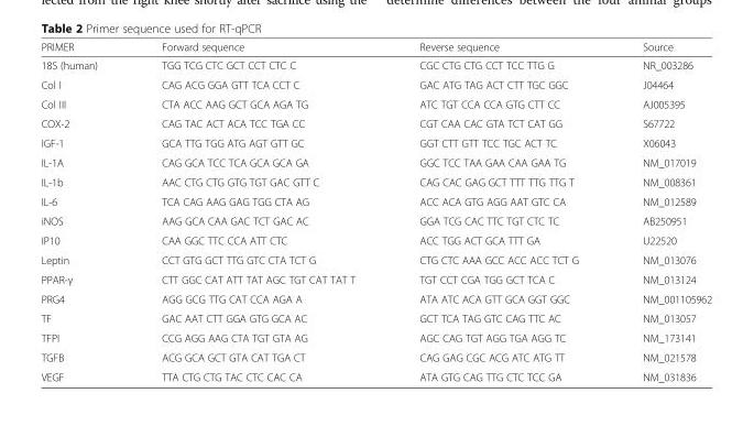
<table><thead><tr><td>PRIMER</td><td>Forward sequence</td><td>Reverse sequence</td><td>Source</td></tr></thead><tbody><tr><td>18S (human)</td><td>TGG TCG CTC GCT CCT CTC C</td><td>CGC CTG CTG CCT TCC TTG G</td><td>NR_003286</td></tr><tr><td>Col I</td><td>CAG ACG GGA GTT TCA CCT C</td><td>GAC ATG TAG ACT CTT TGC GGC</td><td>J04464</td></tr><tr><td>Col III</td><td>CTA ACC AAG GCT GCA AGA TG</td><td>ATC TGT CCA CCA GTG CTT CC</td><td>AJ005395</td></tr><tr><td>COX-2</td><td>CAG TAC ACT ACA TCC TGA CC</td><td>CGT CAA CAC GTA TCT CAT GG</td><td>S67722</td></tr><tr><td>IGF-1</td><td>GCA TTG TGG ATG AGT GTT GC</td><td>GGT CTT GTT TCC TGC ACT TC</td><td>X06043</td></tr><tr><td>IL-1A</td><td>CAG GCA TCC TCA GCA GCA GA</td><td>GGC TCC TAA GAA CAA GAA TG</td><td>NM_017019</td></tr><tr><td>IL-1b</td><td>AAC CTG CTG GTG TGT GAC GTT C</td><td>CAG CAC GAG GCT TTT TTG TTG T</td><td>NM_008361</td></tr><tr><td>IL-6</td><td>TCA CAG AAG GAG TGG CTA AG</td><td>ACC ACA GTG AGG AAT GTC CA</td><td>NM_012589</td></tr><tr><td>iNOS</td><td>AAG GCA CAA GAC TCT GAC AC</td><td>GGA TCG CAC TTC TGT CTC TC</td><td>AB250951</td></tr><tr><td>IP10</td><td>CAA GGC TTC CCA ATT CTC</td><td>ACC TGG ACT GCA TTT GA</td><td>U22520</td></tr><tr><td>Leptin</td><td>CCT GTG GCT TTG GTC CTA TCT G</td><td>CTG CTC AAA GCC ACC ACC TCT G</td><td>NM_013076</td></tr><tr><td>PPAR-γ</td><td>CTT GGC CAT ATT TAT AGC TGT CAT TAT T</td><td>TGT CCT CGA TGG GCT TCA C</td><td>NM_013124</td></tr><tr><td>PRG4</td><td>AGG GCG TTG CAT CCA AGA A</td><td>ATA ATC ACA GTT GCA GGT GGC</td><td>NM_001105962</td></tr><tr><td>TF</td><td>GAC AAT CTT GGA GTG GCA AC</td><td>GCT TCA TAG GTC CAG TTC AC</td><td>NM_013057</td></tr><tr><td>TFPI</td><td>CCG AGG AAG CTA TGT GTA AG</td><td>AGC CAG TGT AGG TGA AGG TC</td><td>NM_173141</td></tr><tr><td>TGFB</td><td>ACG GCA GCT GTA CAT TGA CT</td><td>CAG GAG CGC ACG ATC ATG TT</td><td>NM_021578</td></tr><tr><td>VEGF</td><td>TTA CTG CTG TAC CTC CAC CA</td><td>ATA GTG CAG TTG CTC TCC GA</td><td>NM_031836</td></tr></tbody></table>